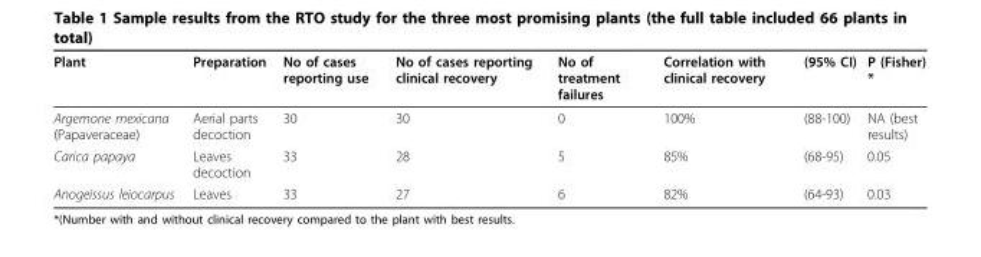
<table><thead><tr><td>Plant</td><td>Preparation</td><td>No of cases reporting use</td><td>No of cases reporting clinical recovery</td><td>No of treatment failures</td><td>Correlation with clinical recovery</td><td>(95% CI)</td><td>P (Fisher) *</td></tr></thead><tbody><tr><td>Argemone mexicana (Papaveraceae)</td><td>Aerial parts decoction</td><td>30</td><td>30</td><td>0</td><td>100%</td><td>(88-100)</td><td>NA (best results)</td></tr><tr><td>Carica papaya</td><td>Leaves decoction</td><td>33</td><td>28</td><td>5</td><td>85%</td><td>(68-95)</td><td>0.05</td></tr><tr><td>Anogeissus leiocarpus</td><td>Leaves</td><td>33</td><td>27</td><td>6</td><td>82%</td><td>(64-93)</td><td>0.03</td></tr></tbody></table>